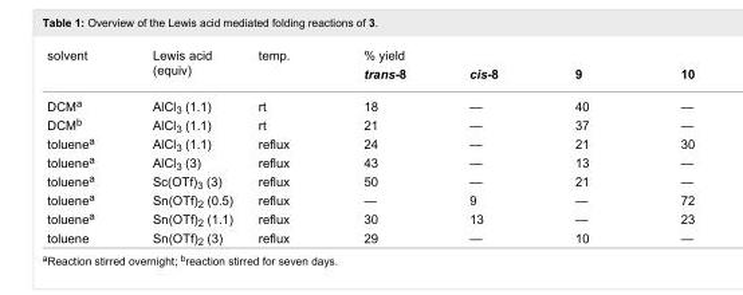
<table><tbody><tr><td rowspan="2">solvent</td><td rowspan="2">Lewis acid (equiv)</td><td rowspan="2">temp.</td><td colspan="4">% yield</td></tr><tr><td>trans-8</td><td>cis-8</td><td>9</td><td>10</td></tr><tr><td>DCM<sup>a</sup></td><td>AlCl<sub>3</sub> (1.1)</td><td>rt</td><td>18</td><td>—</td><td>40</td><td>—</td></tr><tr><td>DCM<sup>b</sup></td><td>AlCl<sub>3</sub> (1.1)</td><td>rt</td><td>21</td><td>—</td><td>37</td><td>—</td></tr><tr><td>toluene<sup>a</sup></td><td>AlCl<sub>3</sub> (1.1)</td><td>reflux</td><td>24</td><td>—</td><td>21</td><td>30</td></tr><tr><td>toluene<sup>a</sup></td><td>AlCl<sub>3</sub> (3)</td><td>reflux</td><td>43</td><td>—</td><td>13</td><td>—</td></tr><tr><td>toluene<sup>a</sup></td><td>Sc(OTf)<sub>3</sub> (3)</td><td>reflux</td><td>50</td><td>—</td><td>21</td><td>—</td></tr><tr><td>toluene<sup>a</sup></td><td>Sn(OTf)<sub>2</sub> (0.5)</td><td>reflux</td><td>—</td><td>9</td><td>—</td><td>72</td></tr><tr><td>toluene<sup>a</sup></td><td>Sn(OTf)<sub>2</sub> (1.1)</td><td>reflux</td><td>30</td><td>13</td><td>—</td><td>23</td></tr><tr><td>toluene</td><td>Sn(OTf)<sub>2</sub> (3)</td><td>reflux</td><td>29</td><td>—</td><td>10</td><td>—</td></tr></tbody></table>